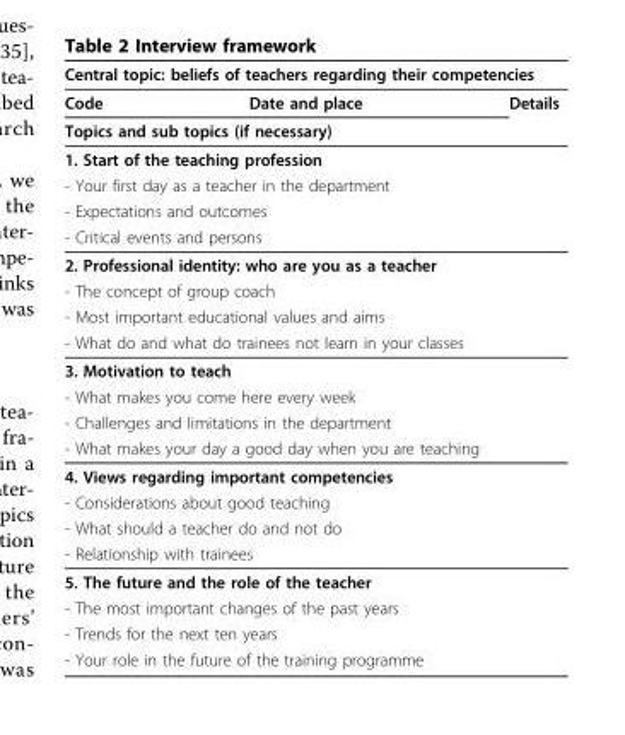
<table><thead><tr><td colspan="3">Central topic: beliefs of teachers regarding their competencies</td></tr><tr><td>Code</td><td>Date and place</td><td>Details</td></tr></thead><tbody><tr><td colspan="3">Topics and sub topics (if necessary)</td></tr><tr><td colspan="3">1. Start of the teaching profession</td></tr><tr><td colspan="3">- Your first day as a teacher in the department</td></tr><tr><td colspan="3">- Expectations and outcomes</td></tr><tr><td colspan="3">- Critical events and persons</td></tr><tr><td colspan="3">2. Professional identity: who are you as a teacher</td></tr><tr><td colspan="3">- The concept of group coach</td></tr><tr><td colspan="3">- Most important educational values and aims</td></tr><tr><td colspan="3">- What do and what do trainees not learn in your classes</td></tr><tr><td colspan="3">3. Motivation to teach</td></tr><tr><td colspan="3">- What makes you come here every week</td></tr><tr><td colspan="3">- Challenges and limitations in the department</td></tr><tr><td colspan="3">- What makes your day a good day when you are teaching</td></tr><tr><td colspan="3">4. Views regarding important competencies</td></tr><tr><td colspan="3">- Considerations about good teaching</td></tr><tr><td colspan="3">- What should a teacher do and not do</td></tr><tr><td colspan="3">- Relationship with trainees</td></tr><tr><td colspan="3">5. The future and the role of the teacher</td></tr><tr><td colspan="3">- The most important changes of the past years</td></tr><tr><td colspan="3">- Trends for the next ten years</td></tr><tr><td colspan="2">- Your role in the future of the training programme</td><td></td></tr></tbody></table>